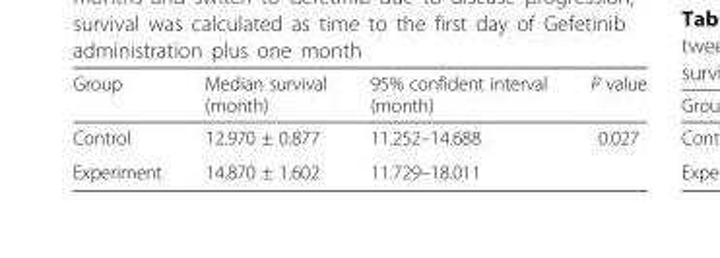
<table><thead><tr><td>Group</td><td>Median survival (month)</td><td>95% confident interval (month)</td><td>P value</td></tr></thead><tbody><tr><td>Control</td><td>12.970 ± 0.877</td><td>11.252–14.688</td><td rowspan="2">0.027</td></tr><tr><td>Experiment</td><td>14.870 ± 1.602</td><td>11.729–18.011</td></tr></tbody></table>